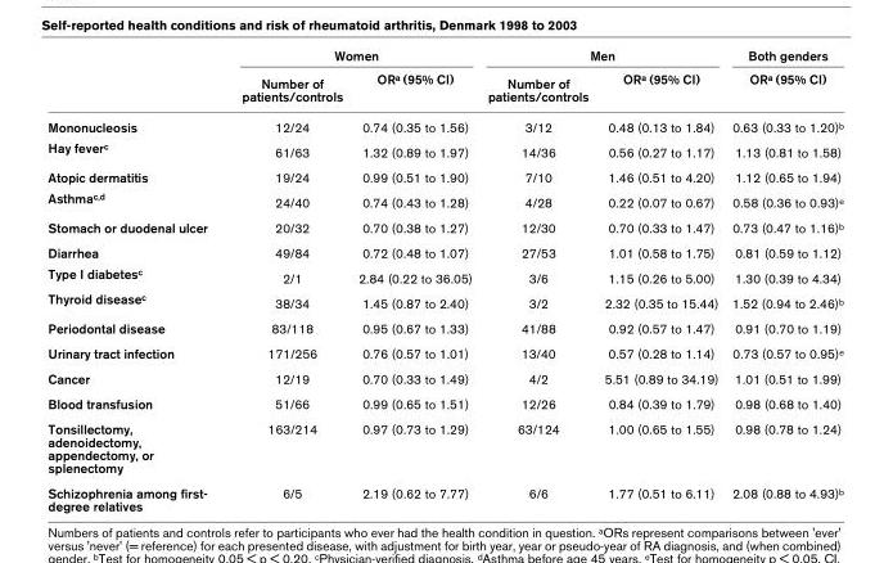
<table><thead><tr><td rowspan="2"></td><td colspan="2">Women</td><td colspan="2">Men</td><td rowspan="2">Both genders ORa (95% CI)</td></tr><tr><td>Number of patients/controls</td><td>ORa (95% CI)</td><td>Number of patients/controls</td><td>ORa (95% CI)</td></tr></thead><tbody><tr><td>Mononucleosis</td><td>12/24</td><td>0.74 (0.35 to 1.56)</td><td>3/12</td><td>0.48 (0.13 to 1.84)</td><td>0.63 (0.33 to 1.20)b</td></tr><tr><td>Hay feverc</td><td>61/63</td><td>1.32 (0.89 to 1.97)</td><td>14/36</td><td>0.56 (0.27 to 1.17)</td><td>1.13 (0.81 to 1.58)</td></tr><tr><td>Atopic dermatitis</td><td>19/24</td><td>0.99 (0.51 to 1.90)</td><td>7/10</td><td>1.46 (0.51 to 4.20)</td><td>1.12 (0.65 to 1.94)</td></tr><tr><td>Asthmac,d</td><td>24/40</td><td>0.74 (0.43 to 1.28)</td><td>4/28</td><td>0.22 (0.07 to 0.67)</td><td>0.58 (0.36 to 0.93)e</td></tr><tr><td>Stomach or duodenal ulcer</td><td>20/32</td><td>0.70 (0.38 to 1.27)</td><td>12/30</td><td>0.70 (0.33 to 1.47)</td><td>0.73 (0.47 to 1.16)b</td></tr><tr><td>Diarrhea</td><td>49/84</td><td>0.72 (0.48 to 1.07)</td><td>27/53</td><td>1.01 (0.58 to 1.75)</td><td>0.81 (0.59 to 1.12)</td></tr><tr><td>Type I diabetesc</td><td>2/1</td><td>2.84 (0.22 to 36.05)</td><td>3/6</td><td>1.15 (0.26 to 5.00)</td><td>1.30 (0.39 to 4.34)</td></tr><tr><td>Thyroid diseasec</td><td>38/34</td><td>1.45 (0.87 to 2.40)</td><td>3/2</td><td>2.32 (0.35 to 15.44)</td><td>1.52 (0.94 to 2.46)b</td></tr><tr><td>Periodontal disease</td><td>83/118</td><td>0.95 (0.67 to 1.33)</td><td>41/88</td><td>0.92 (0.57 to 1.47)</td><td>0.91 (0.70 to 1.19)</td></tr><tr><td>Urinary tract infection</td><td>171/256</td><td>0.76 (0.57 to 1.01)</td><td>13/40</td><td>0.57 (0.28 to 1.14)</td><td>0.73 (0.57 to 0.95)e</td></tr><tr><td>Cancer</td><td>12/19</td><td>0.70 (0.33 to 1.49)</td><td>4/2</td><td>5.51 (0.89 to 34.19)</td><td>1.01 (0.51 to 1.99)</td></tr><tr><td>Blood transfusion</td><td>51/66</td><td>0.99 (0.65 to 1.51)</td><td>12/26</td><td>0.84 (0.39 to 1.79)</td><td>0.98 (0.68 to 1.40)</td></tr><tr><td>Tonsillectomy, adenoidectomy, appendectomy, or splenectomy</td><td>163/214</td><td>0.97 (0.73 to 1.29)</td><td>63/124</td><td>1.00 (0.65 to 1.55)</td><td>0.98 (0.78 to 1.24)</td></tr><tr><td>Schizophrenia among first- degree relatives</td><td>6/5</td><td>2.19 (0.62 to 7.77)</td><td>6/6</td><td>1.77 (0.51 to 6.11)</td><td>2.08 (0.88 to 4.93)b</td></tr></tbody></table>